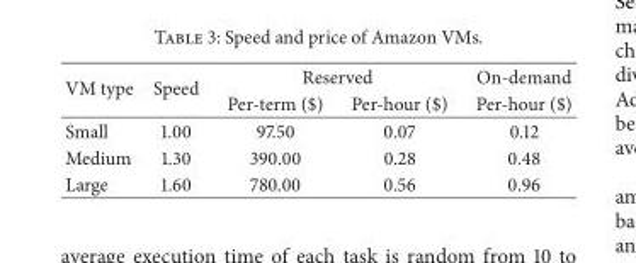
<table><thead><tr><td rowspan="2">VM type</td><td rowspan="2">Speed</td><td colspan="2">Reserved</td><td rowspan="2">On-demand Per-hour ($)</td></tr><tr><td>Per-term ($)</td><td>Per-hour ($)</td></tr></thead><tbody><tr><td>Small</td><td>1.00</td><td>97.50</td><td>0.07</td><td>0.12</td></tr><tr><td>Medium</td><td>1.30</td><td>390.00</td><td>0.28</td><td>0.48</td></tr><tr><td>Large</td><td>1.60</td><td>780.00</td><td>0.56</td><td>0.96</td></tr></tbody></table>